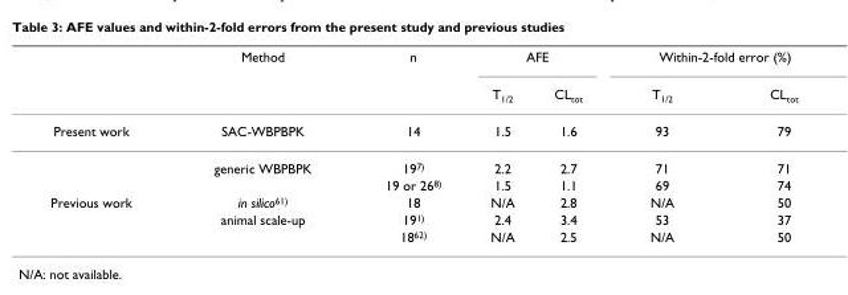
<table><thead><tr><td rowspan="2"></td><td rowspan="2">Method</td><td rowspan="2">n</td><td colspan="2">AFE</td><td colspan="2">Within-2-fold error (%)</td></tr><tr><td>T<sub>1/2</sub></td><td>CL<sub>tot</sub></td><td>T<sub>1/2</sub></td><td>CL<sub>tot</sub></td></tr></thead><tbody><tr><td rowspan="3">Present work</td><td>SAC-WBPBPK</td><td>14</td><td>1.5</td><td>1.6</td><td>93</td><td>79</td></tr><tr><td>generic WBPBPK</td><td>19<sup>7)</sup></td><td>2.2</td><td>2.7</td><td>71</td><td>71</td></tr><tr><td></td><td>19 or 26<sup>8)</sup></td><td>1.5</td><td>1.1</td><td>69</td><td>74</td></tr><tr><td rowspan="3">Previous work</td><td>in silico<sup>61)</sup></td><td>18</td><td>N/A</td><td>2.8</td><td>N/A</td><td>50</td></tr><tr><td>animal scale-up</td><td>19<sup>1)</sup></td><td>2.4</td><td>3.4</td><td>53</td><td>37</td></tr><tr><td></td><td>18<sup>62)</sup></td><td>N/A</td><td>2.5</td><td>N/A</td><td>50</td></tr></tbody></table>